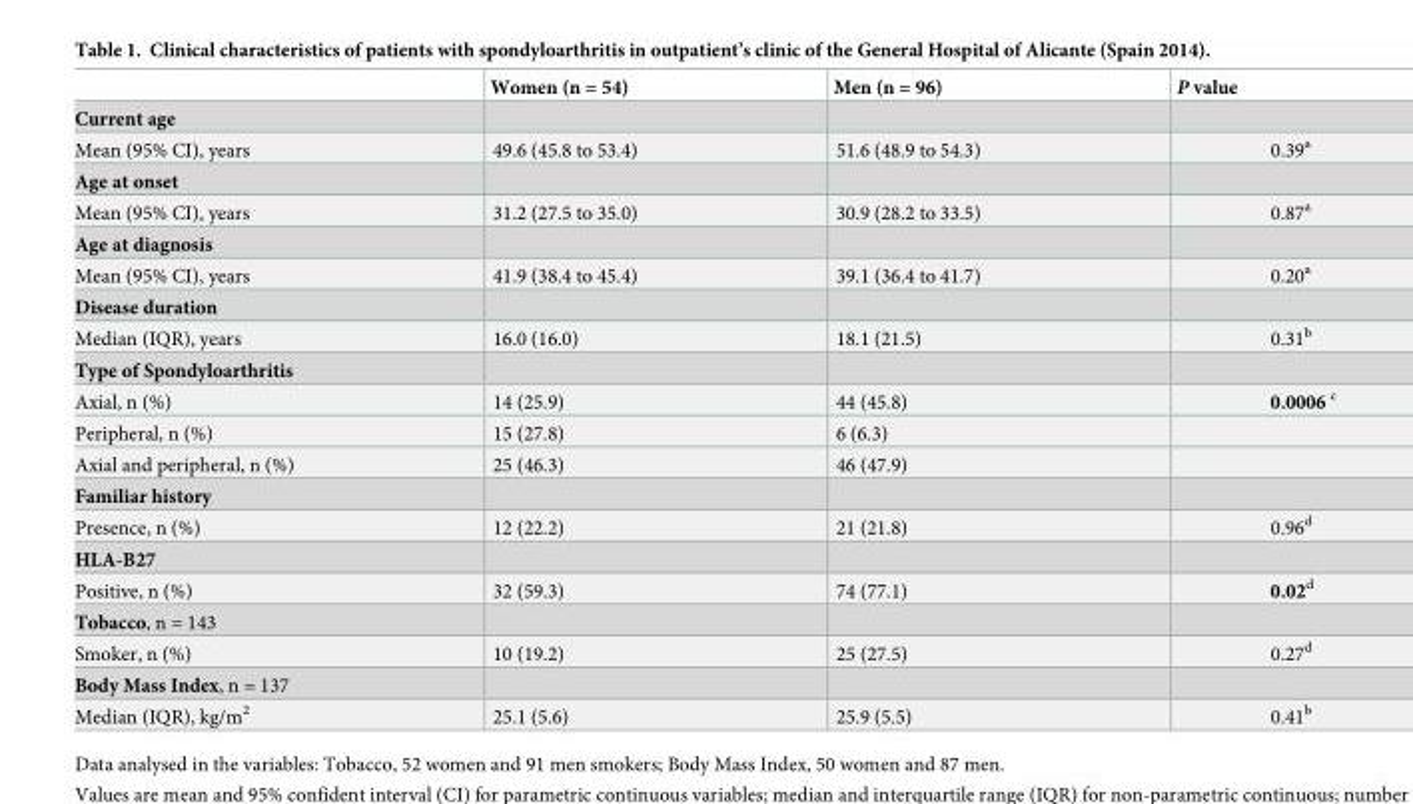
<table><thead><tr><td></td><td>Women (n = 54)</td><td>Men (n = 96)</td><td>P value</td></tr></thead><tbody><tr><td colspan="4">Current age</td></tr><tr><td>Mean (95% CI), years</td><td>49.6 (45.8 to 53.4)</td><td>51.6 (48.9 to 54.3)</td><td>0.39<sup>a</sup></td></tr><tr><td colspan="4">Age at onset</td></tr><tr><td>Mean (95% CI), years</td><td>31.2 (27.5 to 35.0)</td><td>30.9 (28.2 to 33.5)</td><td>0.87<sup>a</sup></td></tr><tr><td colspan="4">Age at diagnosis</td></tr><tr><td>Mean (95% CI), years</td><td>41.9 (38.4 to 45.4)</td><td>39.1 (36.4 to 41.7)</td><td>0.20<sup>a</sup></td></tr><tr><td colspan="4">Disease duration</td></tr><tr><td>Median (IQR), years</td><td>16.0 (16.0)</td><td>18.1 (21.5)</td><td>0.31<sup>b</sup></td></tr><tr><td colspan="4">Type of Spondyloarthritis</td></tr><tr><td>Axial, n (%)</td><td>14 (25.9)</td><td>44 (45.8)</td><td>0.0006 <sup>c</sup></td></tr><tr><td>Peripheral, n (%)</td><td>15 (27.8)</td><td>6 (6.3)</td><td></td></tr><tr><td>Axial and peripheral, n (%)</td><td>25 (46.3)</td><td>46 (47.9)</td><td></td></tr><tr><td colspan="4">Familiar history</td></tr><tr><td>Presence, n (%)</td><td>12 (22.2)</td><td>21 (21.8)</td><td>0.96<sup>d</sup></td></tr><tr><td colspan="4">HLA-B27</td></tr><tr><td>Positive, n (%)</td><td>32 (59.3)</td><td>74 (77.1)</td><td>0.02<sup>d</sup></td></tr><tr><td colspan="4">Tobacco, n = 143</td></tr><tr><td>Smoker, n (%)</td><td>10 (19.2)</td><td>25 (27.5)</td><td>0.27<sup>d</sup></td></tr><tr><td colspan="4">Body Mass Index, n = 137</td></tr><tr><td>Median (IQR), kg/m<sup>2</sup></td><td>25.1 (5.6)</td><td>25.9 (5.5)</td><td>0.41<sup>b</sup></td></tr></tbody></table>